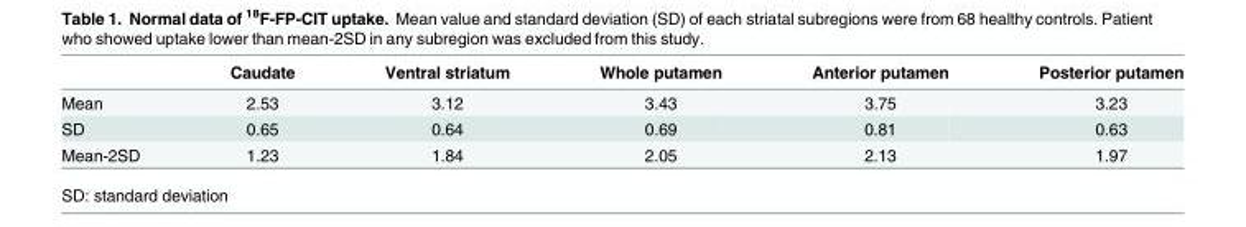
<table><thead><tr><td></td><td>Caudate</td><td>Ventral striatum</td><td>Whole putamen</td><td>Anterior putamen</td><td>Posterior putamen</td></tr></thead><tbody><tr><td>Mean</td><td>2.53</td><td>3.12</td><td>3.43</td><td>3.75</td><td>3.23</td></tr><tr><td>SD</td><td>0.65</td><td>0.64</td><td>0.69</td><td>0.81</td><td>0.63</td></tr><tr><td>Mean-2SD</td><td>1.23</td><td>1.84</td><td>2.05</td><td>2.13</td><td>1.97</td></tr></tbody></table>